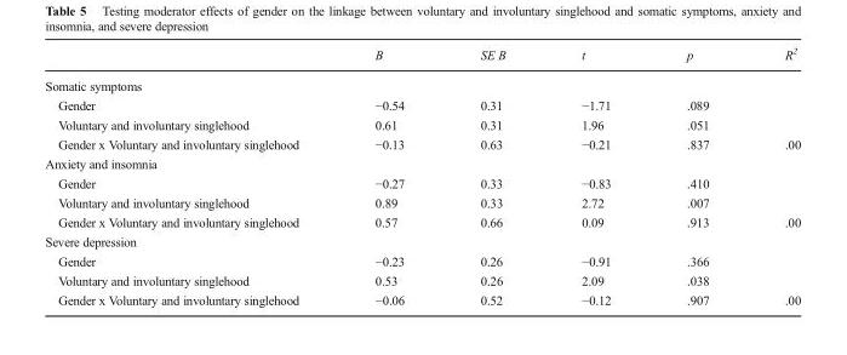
<table><thead><tr><td></td><td>B</td><td>SE B</td><td>t</td><td>p</td><td>R<sup>2</sup></td></tr></thead><tbody><tr><td colspan="6">Somatic symptoms</td></tr><tr><td>Gender</td><td>−0.54</td><td>0.31</td><td>−1.71</td><td>.089</td><td></td></tr><tr><td>Voluntary and involuntary singlehood</td><td>0.61</td><td>0.31</td><td>1.96</td><td>.051</td><td></td></tr><tr><td>Gender x Voluntary and involuntary singlehood</td><td>−0.13</td><td>0.63</td><td>−0.21</td><td>.837</td><td>.00</td></tr><tr><td colspan="6">Anxiety and insomnia</td></tr><tr><td>Gender</td><td>−0.27</td><td>0.33</td><td>−0.83</td><td>.410</td><td></td></tr><tr><td>Voluntary and involuntary singlehood</td><td>0.89</td><td>0.33</td><td>2.72</td><td>.007</td><td></td></tr><tr><td>Gender x Voluntary and involuntary singlehood</td><td>0.57</td><td>0.66</td><td>0.09</td><td>.913</td><td>.00</td></tr><tr><td colspan="6">Severe depression</td></tr><tr><td>Gender</td><td>−0.23</td><td>0.26</td><td>−0.91</td><td>.366</td><td></td></tr><tr><td>Voluntary and involuntary singlehood</td><td>0.53</td><td>0.26</td><td>2.09</td><td>.038</td><td></td></tr><tr><td>Gender x Voluntary and involuntary singlehood</td><td>−0.06</td><td>0.52</td><td>−0.12</td><td>.907</td><td>.00</td></tr></tbody></table>